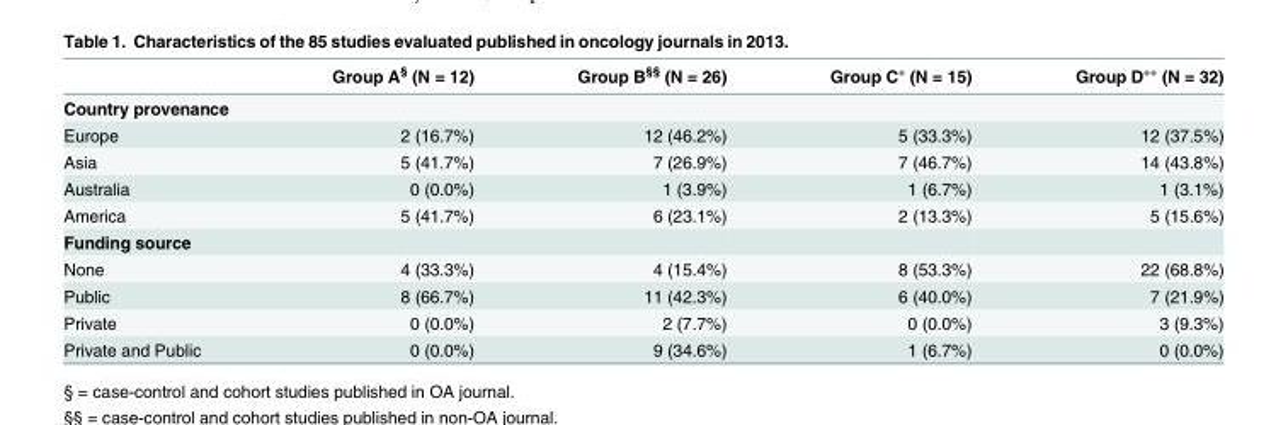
<table><thead><tr><td></td><td>Group A<sup>§</sup> (N = 12)</td><td>Group B<sup>§§</sup> (N = 26)</td><td>Group C° (N = 15)</td><td>Group D°° (N = 32)</td></tr></thead><tbody><tr><td colspan="5">Country provenance</td></tr><tr><td>Europe</td><td>2 (16.7%)</td><td>12 (46.2%)</td><td>5 (33.3%)</td><td>12 (37.5%)</td></tr><tr><td>Asia</td><td>5 (41.7%)</td><td>7 (26.9%)</td><td>7 (46.7%)</td><td>14 (43.8%)</td></tr><tr><td>Australia</td><td>0 (0.0%)</td><td>1 (3.9%)</td><td>1 (6.7%)</td><td>1 (3.1%)</td></tr><tr><td>America</td><td>5 (41.7%)</td><td>6 (23.1%)</td><td>2 (13.3%)</td><td>5 (15.6%)</td></tr><tr><td colspan="5">Funding source</td></tr><tr><td>None</td><td>4 (33.3%)</td><td>4 (15.4%)</td><td>8 (53.3%)</td><td>22 (68.8%)</td></tr><tr><td>Public</td><td>8 (66.7%)</td><td>11 (42.3%)</td><td>6 (40.0%)</td><td>7 (21.9%)</td></tr><tr><td>Private</td><td>0 (0.0%)</td><td>2 (7.7%)</td><td>0 (0.0%)</td><td>3 (9.3%)</td></tr><tr><td>Private and Public</td><td>0 (0.0%)</td><td>9 (34.6%)</td><td>1 (6.7%)</td><td>0 (0.0%)</td></tr></tbody></table>